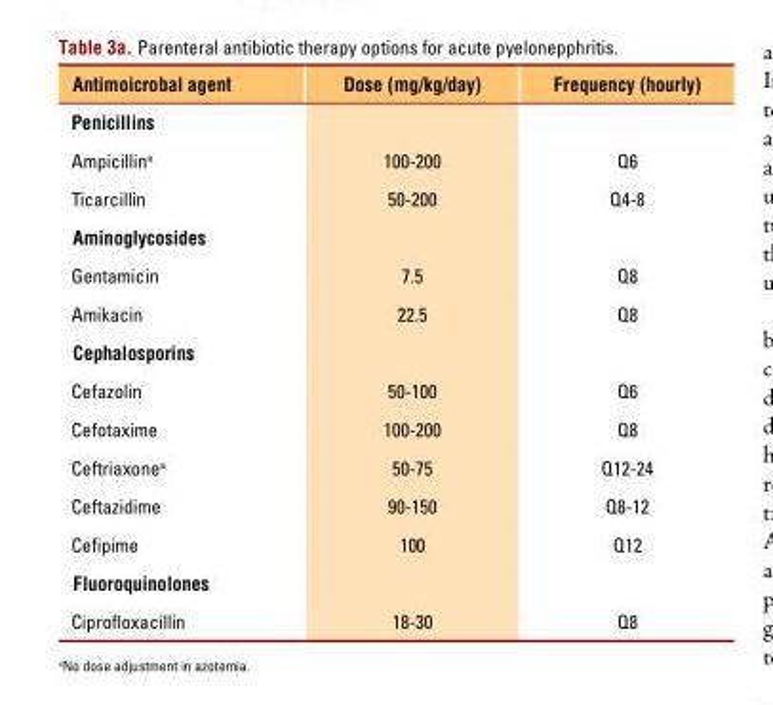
<table><thead><tr><td>Antimoicrobal agent</td><td>Dose (mg/kg/day)</td><td>Frequency (hourly)</td></tr></thead><tbody><tr><td colspan="3">Penicillins</td></tr><tr><td>Ampicillin<sup>a</sup></td><td>100-200</td><td>Q6</td></tr><tr><td>Ticarcillin</td><td>50-200</td><td>Q4-8</td></tr><tr><td colspan="3">Aminoglycosides</td></tr><tr><td>Gentamicin</td><td>7.5</td><td>Q8</td></tr><tr><td>Amikacin</td><td>22.5</td><td>Q8</td></tr><tr><td colspan="3">Cephalosporins</td></tr><tr><td>Cefazolin</td><td>50-100</td><td>Q6</td></tr><tr><td>Cefotaxime</td><td>100-200</td><td>Q8</td></tr><tr><td>Ceftriaxone<sup>a</sup></td><td>50-75</td><td>Q12-24</td></tr><tr><td>Ceftazidime</td><td>90-150</td><td>Q8-12</td></tr><tr><td>Cefipime</td><td>100</td><td>Q12</td></tr><tr><td colspan="3">Fluoroquinolones</td></tr><tr><td>Ciprofloxacillin</td><td>18-30</td><td>Q8</td></tr></tbody></table>